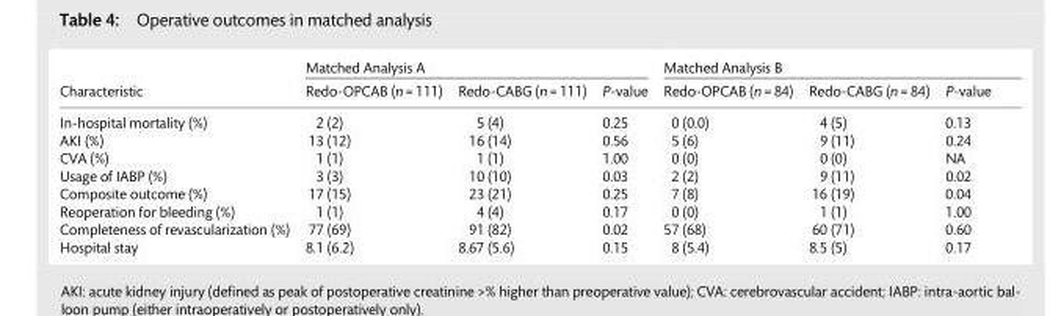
<table><thead><tr><td rowspan="2">Characteristic</td><td colspan="3">Matched Analysis A</td><td colspan="3">Matched Analysis B</td></tr><tr><td>Redo-OPCAB (n = 111)</td><td>Redo-CABG (n = 111)</td><td>P-value</td><td>Redo-OPCAB (n = 84)</td><td>Redo-CABG (n = 84)</td><td>P-value</td></tr></thead><tbody><tr><td>In-hospital mortality (%)</td><td>2 (2)</td><td>5 (4)</td><td>0.25</td><td>0 (0.0)</td><td>4 (5)</td><td>0.13</td></tr><tr><td>AKI (%)</td><td>13 (12)</td><td>16 (14)</td><td>0.56</td><td>5 (6)</td><td>9 (11)</td><td>0.24</td></tr><tr><td>CVA (%)</td><td>1 (1)</td><td>1 (1)</td><td>1.00</td><td>0 (0)</td><td>0 (0)</td><td>NA</td></tr><tr><td>Usage of IABP (%)</td><td>3 (3)</td><td>10 (10)</td><td>0.03</td><td>2 (2)</td><td>9 (11)</td><td>0.02</td></tr><tr><td>Composite outcome (%)</td><td>17 (15)</td><td>23 (21)</td><td>0.25</td><td>7 (8)</td><td>16 (19)</td><td>0.04</td></tr><tr><td>Reoperation for bleeding (%)</td><td>1 (1)</td><td>4 (4)</td><td>0.17</td><td>0 (0)</td><td>1 (1)</td><td>1.00</td></tr><tr><td>Completeness of revascularization (%)</td><td>77 (69)</td><td>91 (82)</td><td>0.02</td><td>57 (68)</td><td>60 (71)</td><td>0.60</td></tr><tr><td>Hospital stay</td><td>8.1 (6.2)</td><td>8.67 (5.6)</td><td>0.15</td><td>8 (5.4)</td><td>8.5 (5)</td><td>0.17</td></tr></tbody></table>